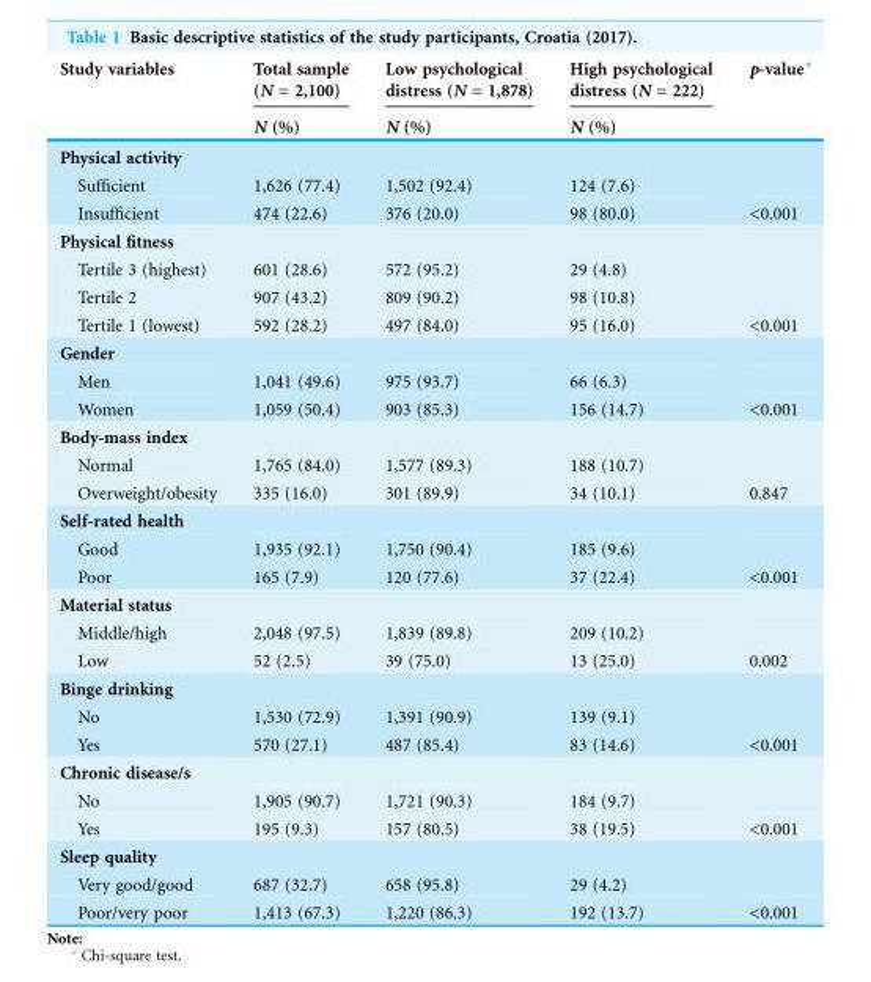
<table><thead><tr><td rowspan="2">Study variables</td><td rowspan="2">Total sample (N = 2,100) N (%)</td><td rowspan="2">Low psychological distress (N = 1,878) N (%)</td><td rowspan="2">High psychological distress (N = 222) N (%)</td><td rowspan="2">p-value*</td></tr><tr></tr></thead><tbody><tr><td colspan="5">Physical activity</td></tr><tr><td>Sufficient</td><td>1,626 (77.4)</td><td>1,502 (92.4)</td><td>124 (7.6)</td><td></td></tr><tr><td>Insufficient</td><td>474 (22.6)</td><td>376 (20.0)</td><td>98 (80.0)</td><td>&lt;0.001</td></tr><tr><td colspan="5">Physical fitness</td></tr><tr><td>Tertile 3 (highest)</td><td>601 (28.6)</td><td>572 (95.2)</td><td>29 (4.8)</td><td></td></tr><tr><td>Tertile 2</td><td>907 (43.2)</td><td>809 (90.2)</td><td>98 (10.8)</td><td></td></tr><tr><td>Tertile 1 (lowest)</td><td>592 (28.2)</td><td>497 (84.0)</td><td>95 (16.0)</td><td>&lt;0.001</td></tr><tr><td colspan="5">Gender</td></tr><tr><td>Men</td><td>1,041 (49.6)</td><td>975 (93.7)</td><td>66 (6.3)</td><td></td></tr><tr><td>Women</td><td>1,059 (50.4)</td><td>903 (85.3)</td><td>156 (14.7)</td><td>&lt;0.001</td></tr><tr><td colspan="5">Body-mass index</td></tr><tr><td>Normal</td><td>1,765 (84.0)</td><td>1,577 (89.3)</td><td>188 (10.7)</td><td></td></tr><tr><td>Overweight/obesity</td><td>335 (16.0)</td><td>301 (89.9)</td><td>34 (10.1)</td><td>0.847</td></tr><tr><td colspan="5">Self-rated health</td></tr><tr><td>Good</td><td>1,935 (92.1)</td><td>1,750 (90.4)</td><td>185 (9.6)</td><td></td></tr><tr><td>Poor</td><td>165 (7.9)</td><td>120 (77.6)</td><td>37 (22.4)</td><td>&lt;0.001</td></tr><tr><td colspan="5">Material status</td></tr><tr><td>Middle/high</td><td>2,048 (97.5)</td><td>1,839 (89.8)</td><td>209 (10.2)</td><td></td></tr><tr><td>Low</td><td>52 (2.5)</td><td>39 (75.0)</td><td>13 (25.0)</td><td>0.002</td></tr><tr><td colspan="5">Binge drinking</td></tr><tr><td>No</td><td>1,530 (72.9)</td><td>1,391 (90.9)</td><td>139 (9.1)</td><td></td></tr><tr><td>Yes</td><td>570 (27.1)</td><td>487 (85.4)</td><td>83 (14.6)</td><td>&lt;0.001</td></tr><tr><td colspan="5">Chronic disease/s</td></tr><tr><td>No</td><td>1,905 (90.7)</td><td>1,721 (90.3)</td><td>184 (9.7)</td><td></td></tr><tr><td>Yes</td><td>195 (9.3)</td><td>157 (80.5)</td><td>38 (19.5)</td><td>&lt;0.001</td></tr><tr><td colspan="5">Sleep quality</td></tr><tr><td>Very good/good</td><td>687 (32.7)</td><td>658 (95.8)</td><td>29 (4.2)</td><td></td></tr><tr><td>Poor/very poor</td><td>1,413 (67.3)</td><td>1,220 (86.3)</td><td>192 (13.7)</td><td>&lt;0.001</td></tr></tbody></table>